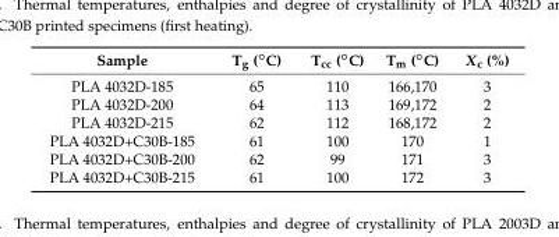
<table><thead><tr><td>Sample</td><td>Tg (◦C)</td><td>Tcc (◦C)</td><td>Tm (◦C)</td><td>X<sub>c</sub> (%)</td></tr></thead><tbody><tr><td>PLA 4032D-185</td><td>65</td><td>110</td><td>166,170</td><td>3</td></tr><tr><td>PLA 4032D-200</td><td>64</td><td>113</td><td>169,172</td><td>2</td></tr><tr><td>PLA 4032D-215</td><td>62</td><td>112</td><td>168,172</td><td>2</td></tr><tr><td>PLA 4032D+C30B-185</td><td>61</td><td>100</td><td>170</td><td>1</td></tr><tr><td>PLA 4032D+C30B-200</td><td>62</td><td>99</td><td>171</td><td>3</td></tr><tr><td>PLA 4032D+C30B-215</td><td>61</td><td>100</td><td>172</td><td>3</td></tr></tbody></table>